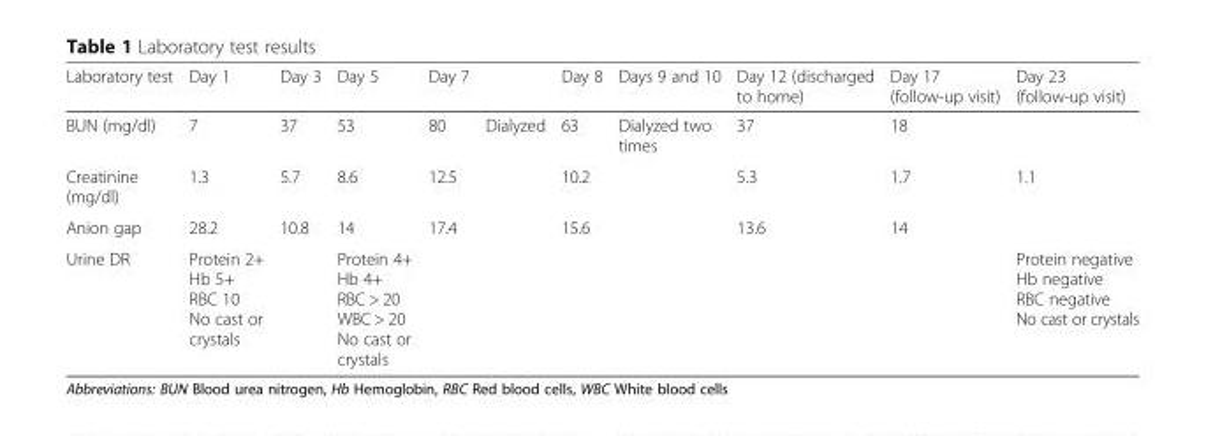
<table><thead><tr><td>Laboratory test</td><td>Day 1</td><td>Day 3</td><td>Day 5</td><td>Day 7</td><td></td><td>Day 8</td><td>Days 9 and 10</td><td>Day 12 (discharged to home)</td><td>Day 17 (follow-up visit)</td><td>Day 23 (follow-up visit)</td></tr></thead><tbody><tr><td>BUN (mg/dl)</td><td>7</td><td>37</td><td>53</td><td>80</td><td>Dialyzed</td><td>63</td><td>Dialyzed two times</td><td>37</td><td>18</td><td></td></tr><tr><td>Creatinine (mg/dl)</td><td>1.3</td><td>5.7</td><td>8.6</td><td>12.5</td><td></td><td>10.2</td><td></td><td>5.3</td><td>1.7</td><td>1.1</td></tr><tr><td>Anion gap</td><td>28.2</td><td>10.8</td><td>14</td><td>17.4</td><td></td><td>15.6</td><td></td><td>13.6</td><td>14</td><td></td></tr><tr><td>Urine DR</td><td>Protein 2+ Hb 5+ RBC 10 No cast or crystals</td><td></td><td>Protein 4+ Hb 4+ RBC &gt; 20 WBC &gt; 20 No cast or crystals</td><td></td><td></td><td></td><td></td><td></td><td></td><td>Protein negative Hb negative RBC negative No cast or crystals</td></tr></tbody></table>